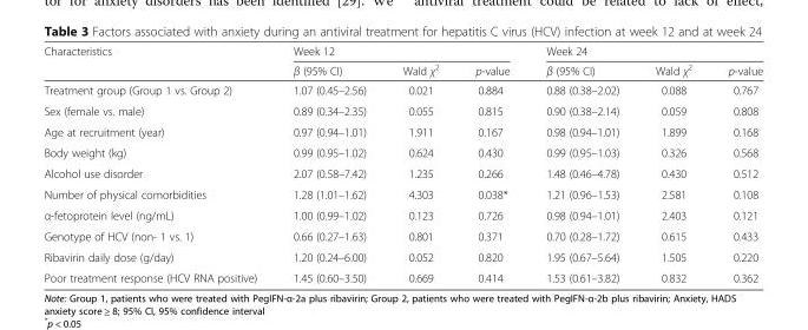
<table><thead><tr><td rowspan="2">Characteristics</td><td colspan="3">Week 12</td><td colspan="3">Week 24</td></tr><tr><td>β (95% CI)</td><td>Wald χ<sup>2</sup></td><td>p-value</td><td>β (95% CI)</td><td>Wald χ<sup>2</sup></td><td>p-value</td></tr></thead><tbody><tr><td>Treatment group (Group 1 vs. Group 2)</td><td>1.07 (0.45–2.56)</td><td>0.021</td><td>0.884</td><td>0.88 (0.38–2.02)</td><td>0.088</td><td>0.767</td></tr><tr><td>Sex (female vs. male)</td><td>0.89 (0.34–2.35)</td><td>0.055</td><td>0.815</td><td>0.90 (0.38–2.14)</td><td>0.059</td><td>0.808</td></tr><tr><td>Age at recruitment (year)</td><td>0.97 (0.94–1.01)</td><td>1.911</td><td>0.167</td><td>0.98 (0.94–1.01)</td><td>1.899</td><td>0.168</td></tr><tr><td>Body weight (kg)</td><td>0.99 (0.95–1.02)</td><td>0.624</td><td>0.430</td><td>0.99 (0.95–1.03)</td><td>0.326</td><td>0.568</td></tr><tr><td>Alcohol use disorder</td><td>2.07 (0.58–7.42)</td><td>1.235</td><td>0.266</td><td>1.48 (0.46–4.78)</td><td>0.430</td><td>0.512</td></tr><tr><td>Number of physical comorbidities</td><td>1.28 (1.01–1.62)</td><td>4.303</td><td>0.038*</td><td>1.21 (0.96–1.53)</td><td>2.581</td><td>0.108</td></tr><tr><td>α-fetoprotein level (ng/mL)</td><td>1.00 (0.99–1.02)</td><td>0.123</td><td>0.726</td><td>0.98 (0.94–1.01)</td><td>2.403</td><td>0.121</td></tr><tr><td>Genotype of HCV (non- 1 vs. 1)</td><td>0.66 (0.27–1.63)</td><td>0.801</td><td>0.371</td><td>0.70 (0.28–1.72)</td><td>0.615</td><td>0.433</td></tr><tr><td>Ribavirin daily dose (g/day)</td><td>1.20 (0.24–6.00)</td><td>0.052</td><td>0.820</td><td>1.95 (0.67–5.64)</td><td>1.505</td><td>0.220</td></tr><tr><td>Poor treatment response (HCV RNA positive)</td><td>1.45 (0.60–3.50)</td><td>0.669</td><td>0.414</td><td>1.53 (0.61–3.82)</td><td>0.832</td><td>0.362</td></tr></tbody></table>